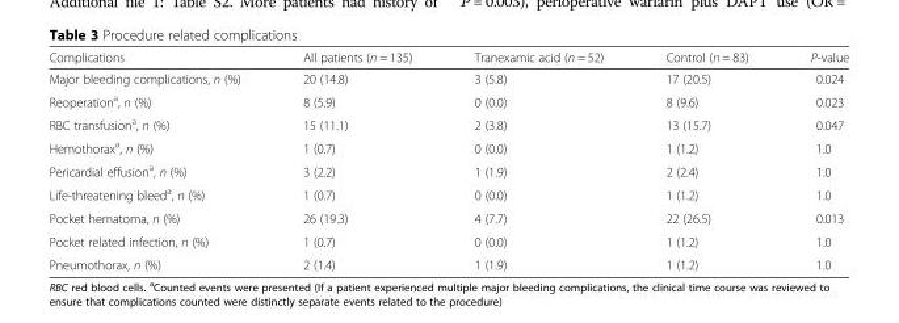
<table><thead><tr><td>Complications</td><td>All patients (n = 135)</td><td>Tranexamic acid (n = 52)</td><td>Control (n = 83)</td><td>P-value</td></tr></thead><tbody><tr><td>Major bleeding complications, n (%)</td><td>20 (14.8)</td><td>3 (5.8)</td><td>17 (20.5)</td><td>0.024</td></tr><tr><td>Reoperation<sup>a</sup>, n (%)</td><td>8 (5.9)</td><td>0 (0.0)</td><td>8 (9.6)</td><td>0.023</td></tr><tr><td>RBC transfusion<sup>a</sup>, n (%)</td><td>15 (11.1)</td><td>2 (3.8)</td><td>13 (15.7)</td><td>0.047</td></tr><tr><td>Hemothorax<sup>a</sup>, n (%)</td><td>1 (0.7)</td><td>0 (0.0)</td><td>1 (1.2)</td><td>1.0</td></tr><tr><td>Pericardial effusion<sup>a</sup>, n (%)</td><td>3 (2.2)</td><td>1 (1.9)</td><td>2 (2.4)</td><td>1.0</td></tr><tr><td>Life-threatening bleed<sup>a</sup>, n (%)</td><td>1 (0.7)</td><td>0 (0.0)</td><td>1 (1.2)</td><td>1.0</td></tr><tr><td>Pocket hematoma, n (%)</td><td>26 (19.3)</td><td>4 (7.7)</td><td>22 (26.5)</td><td>0.013</td></tr><tr><td>Pocket related infection, n (%)</td><td>1 (0.7)</td><td>0 (0.0)</td><td>1 (1.2)</td><td>1.0</td></tr><tr><td>Pneumothorax, n (%)</td><td>2 (1.4)</td><td>1 (1.9)</td><td>1 (1.2)</td><td>1.0</td></tr></tbody></table>